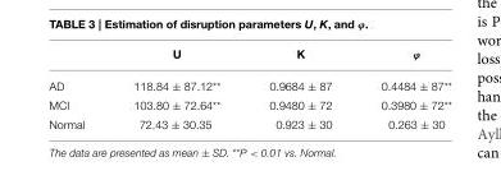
<table><thead><tr><td></td><td>U</td><td>K</td><td>ϕ</td></tr></thead><tbody><tr><td>AD</td><td>118.84 ± 87.12**</td><td>0.9684 ± 87</td><td>0.4484 ± 87**</td></tr><tr><td>MCI</td><td>103.80 ± 72.64**</td><td>0.9480 ± 72</td><td>0.3980 ± 72**</td></tr><tr><td>Normal</td><td>72.43 ± 30.35</td><td>0.923 ± 30</td><td>0.263 ± 30</td></tr></tbody></table>